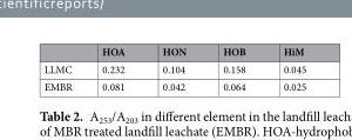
<table><thead><tr><td></td><td>HOA</td><td>HON</td><td>HOB</td><td>HiM</td></tr></thead><tbody><tr><td>LLMC</td><td>0.232</td><td>0.104</td><td>0.158</td><td>0.045</td></tr><tr><td>EMBR</td><td>0.081</td><td>0.042</td><td>0.064</td><td>0.025</td></tr></tbody></table>